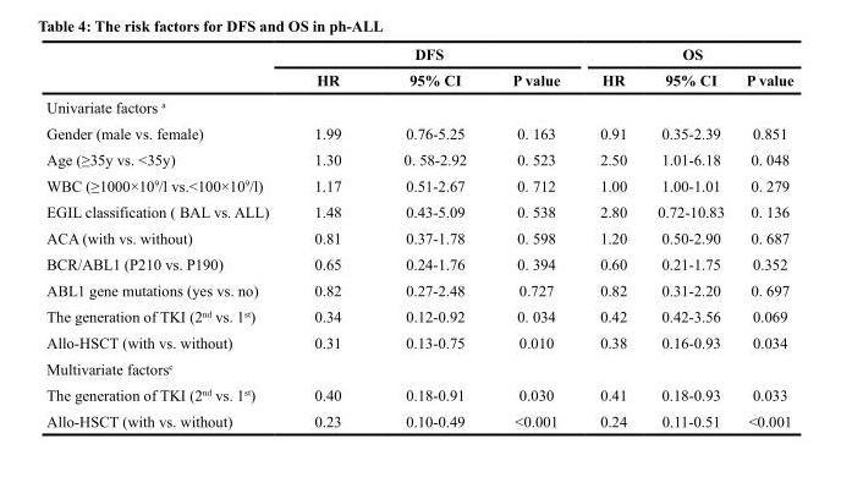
<table><thead><tr><td rowspan="2"></td><td colspan="3">DFS</td><td colspan="3">OS</td></tr><tr><td>HR</td><td>95% CI</td><td>P value</td><td>HR</td><td>95% CI</td><td>P value</td></tr></thead><tbody><tr><td colspan="7">Univariate factors <sup>a</sup></td></tr><tr><td>Gender (male vs. female)</td><td>1.99</td><td>0.76-5.25</td><td>0. 163</td><td>0.91</td><td>0.35-2.39</td><td>0.851</td></tr><tr><td>Age (≥35y vs. &lt;35y)</td><td>1.30</td><td>0. 58-2.92</td><td>0. 523</td><td>2.50</td><td>1.01-6.18</td><td>0. 048</td></tr><tr><td>WBC (≥1000×10<sup>9</sup>/l vs.&lt;100×10<sup>9</sup>/l)</td><td>1.17</td><td>0.51-2.67</td><td>0. 712</td><td>1.00</td><td>1.00-1.01</td><td>0. 279</td></tr><tr><td>EGIL classification ( BAL vs. ALL)</td><td>1.48</td><td>0.43-5.09</td><td>0. 538</td><td>2.80</td><td>0.72-10.83</td><td>0. 136</td></tr><tr><td>ACA (with vs. without)</td><td>0.81</td><td>0.37-1.78</td><td>0. 598</td><td>1.20</td><td>0.50-2.90</td><td>0. 687</td></tr><tr><td>BCR/ABL1 (P210 vs. P190)</td><td>0.65</td><td>0.24-1.76</td><td>0. 394</td><td>0.60</td><td>0.21-1.75</td><td>0.352</td></tr><tr><td>ABL1 gene mutations (yes vs. no)</td><td>0.82</td><td>0.27-2.48</td><td>0.727</td><td>0.82</td><td>0.31-2.20</td><td>0. 697</td></tr><tr><td>The generation of TKI (2<sup>nd</sup> vs. 1<sup>st</sup>)</td><td>0.34</td><td>0.12-0.92</td><td>0. 034</td><td>0.42</td><td>0.42-3.56</td><td>0.069</td></tr><tr><td>Allo-HSCT (with vs. without)</td><td>0.31</td><td>0.13-0.75</td><td>0.010</td><td>0.38</td><td>0.16-0.93</td><td>0.034</td></tr><tr><td colspan="7">Multivariate factors<sup>c</sup></td></tr><tr><td>The generation of TKI (2<sup>nd</sup> vs. 1<sup>st</sup>)</td><td>0.40</td><td>0.18-0.91</td><td>0.030</td><td>0.41</td><td>0.18-0.93</td><td>0.033</td></tr><tr><td>Allo-HSCT (with vs. without)</td><td>0.23</td><td>0.10-0.49</td><td>&lt;0.001</td><td>0.24</td><td>0.11-0.51</td><td>&lt;0.001</td></tr></tbody></table>